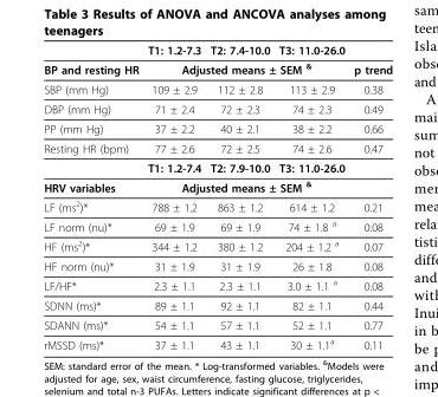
<table><thead><tr><td></td><td>T1: 1.2-7.3</td><td>T2: 7.4-10.0</td><td>T3: 11.0-26.0</td><td></td></tr></thead><tbody><tr><td>BP and resting HR</td><td colspan="3">Adjusted means ± SEM <sup>&amp;</sup></td><td>p trend</td></tr><tr><td>SBP (mm Hg)</td><td>109 ± 2.9</td><td>112 ± 2.8</td><td>113 ± 2.9</td><td>0.38</td></tr><tr><td>DBP (mm Hg)</td><td>71 ± 2.4</td><td>72 ± 2.3</td><td>74 ± 2.3</td><td>0.49</td></tr><tr><td>PP (mm Hg)</td><td>37 ± 2.2</td><td>40 ± 2.1</td><td>38 ± 2.2</td><td>0.66</td></tr><tr><td rowspan="2">Resting HR (bpm)</td><td>77 ± 2.6</td><td>72 ± 2.5</td><td>74 ± 2.6</td><td>0.47</td></tr><tr><td>T1: 1.2-7.4</td><td>T2: 7.9-10.0</td><td>T3: 11.0-26.0</td><td></td></tr><tr><td>HRV variables</td><td colspan="3">Adjusted means ± SEM <sup>&amp;</sup></td><td></td></tr><tr><td>LF (ms<sup>2</sup>)*</td><td>788 ± 1.2</td><td>863 ± 1.2</td><td>614 ± 1.2</td><td>0.21</td></tr><tr><td>LF norm (nu)*</td><td>69 ± 1.9</td><td>69 ± 1.9</td><td>74 ± 1.8 <sup>a</sup></td><td>0.08</td></tr><tr><td>HF (ms<sup>2</sup>)*</td><td>344 ± 1.2</td><td>380 ± 1.2</td><td>204 ± 1.2 <sup>a</sup></td><td>0.07</td></tr><tr><td>HF norm (nu)*</td><td>31 ± 1.9</td><td>31 ± 1.9</td><td>26 ± 1.8</td><td>0.08</td></tr><tr><td>LF/HF*</td><td>2.3 ± 1.1</td><td>2.3 ± 1.1</td><td>3.0 ± 1.1 <sup>a</sup></td><td>0.08</td></tr><tr><td>SDNN (ms)*</td><td>89 ± 1.1</td><td>92 ± 1.1</td><td>82 ± 1.1</td><td>0.44</td></tr><tr><td>SDANN (ms)*</td><td>54 ± 1.1</td><td>57 ± 1.1</td><td>52 ± 1.1</td><td>0.77</td></tr><tr><td>rMSSD (ms)*</td><td>37 ± 1.1</td><td>43 ± 1.1</td><td>30 ± 1.1<sup>a</sup></td><td>0.11</td></tr></tbody></table>